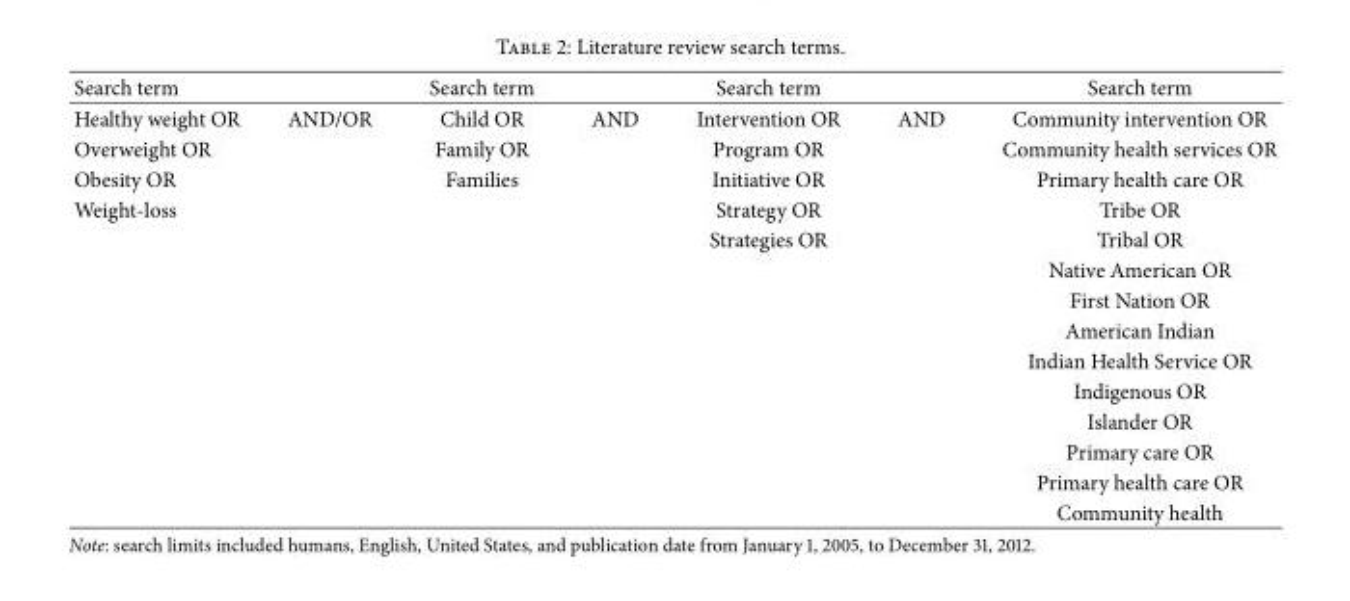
<table><thead><tr><td>Search term</td><td></td><td>Search term</td><td></td><td>Search term</td><td></td><td>Search term</td></tr></thead><tbody><tr><td>Healthy weight OR</td><td>AND/OR</td><td>Child OR</td><td>AND</td><td>Intervention OR</td><td>AND</td><td>Community intervention OR</td></tr><tr><td>Overweight OR</td><td></td><td>Family OR</td><td></td><td>Program OR</td><td></td><td>Community health services OR</td></tr><tr><td>Obesity OR</td><td></td><td>Families</td><td></td><td>Initiative OR</td><td></td><td>Primary health care OR</td></tr><tr><td rowspan="11">Weight-loss</td><td></td><td></td><td></td><td>Strategy OR</td><td></td><td>Tribe OR</td></tr><tr><td></td><td></td><td></td><td>Strategies OR</td><td></td><td>Tribal OR</td></tr><tr><td></td><td></td><td></td><td></td><td></td><td>Native American OR</td></tr><tr><td></td><td></td><td></td><td></td><td></td><td>First Nation OR</td></tr><tr><td></td><td></td><td></td><td></td><td></td><td>American Indian</td></tr><tr><td></td><td></td><td></td><td></td><td></td><td>Indian Health Service OR</td></tr><tr><td></td><td></td><td></td><td></td><td></td><td>Indigenous OR</td></tr><tr><td></td><td></td><td></td><td></td><td></td><td>Islander OR</td></tr><tr><td></td><td></td><td></td><td></td><td></td><td>Primary care OR</td></tr><tr><td></td><td></td><td></td><td></td><td></td><td>Primary health care OR</td></tr><tr><td></td><td></td><td></td><td></td><td></td><td>Community health</td></tr></tbody></table>